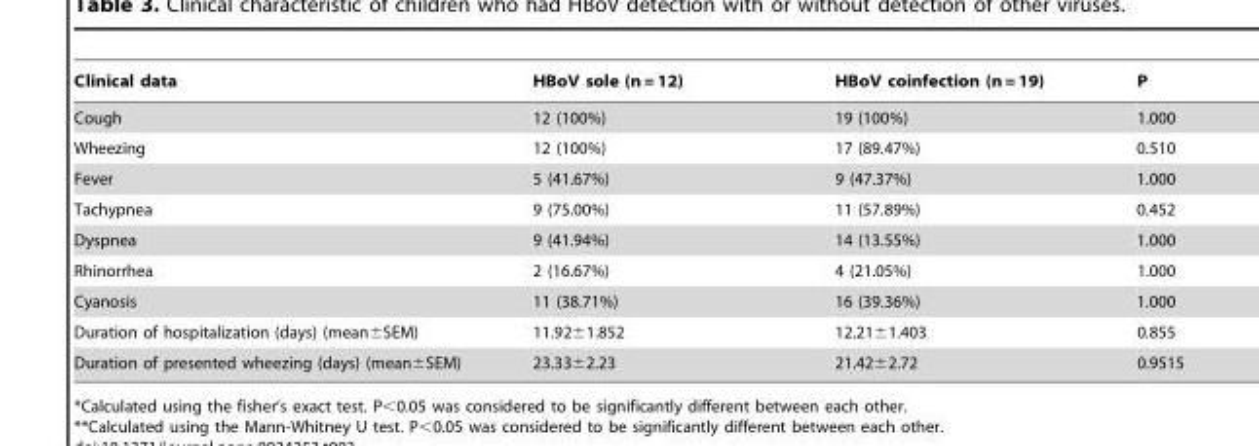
<table><thead><tr><td>Clinical data</td><td>HBoV sole (n = 12)</td><td>HBoV coinfection (n = 19)</td><td>P</td></tr></thead><tbody><tr><td>Cough</td><td>12 (100%)</td><td>19 (100%)</td><td>1.000</td></tr><tr><td>Wheezing</td><td>12 (100%)</td><td>17 (89.47%)</td><td>0.510</td></tr><tr><td>Fever</td><td>5 (41.67%)</td><td>9 (47.37%)</td><td>1.000</td></tr><tr><td>Tachypnea</td><td>9 (75.00%)</td><td>11 (57.89%)</td><td>0.452</td></tr><tr><td>Dyspnea</td><td>9 (41.94%)</td><td>14 (13.55%)</td><td>1.000</td></tr><tr><td>Rhinorrhea</td><td>2 (16.67%)</td><td>4 (21.05%)</td><td>1.000</td></tr><tr><td>Cyanosis</td><td>11 (38.71%)</td><td>16 (39.36%)</td><td>1.000</td></tr><tr><td>Duration of hospitalization (days) (mean±SEM)</td><td>11.92±1.852</td><td>12.21±1.403</td><td>0.855</td></tr><tr><td>Duration of presented wheezing (days) (mean±SEM)</td><td>23.33±2.23</td><td>21.42±2.72</td><td>0.9515</td></tr></tbody></table>